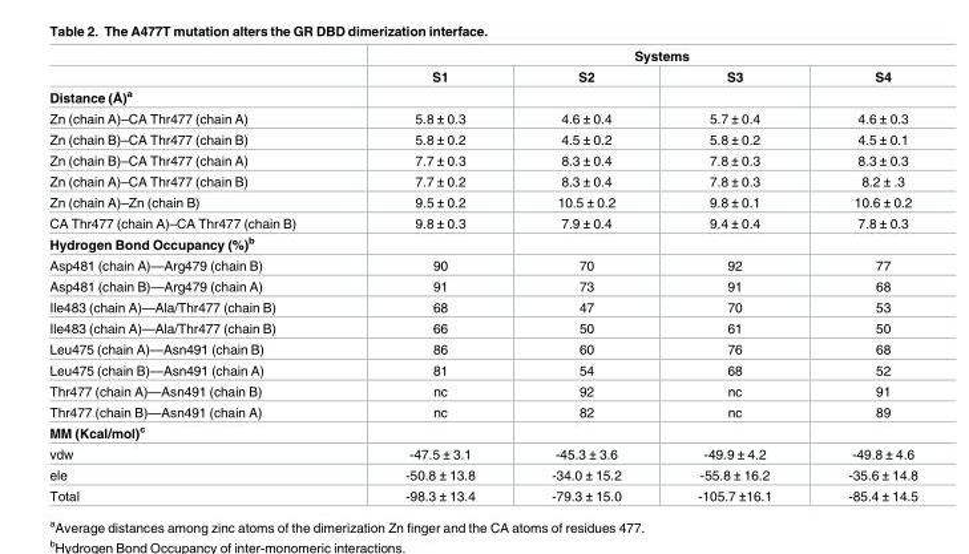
<table><thead><tr><td rowspan="2"></td><td colspan="4">Systems</td></tr><tr><td>S1</td><td>S2</td><td>S3</td><td>S4</td></tr></thead><tbody><tr><td colspan="5">Distance (Å)<sup>a</sup></td></tr><tr><td>Zn (chain A)–CA Thr477 (chain A)</td><td>5.8 ± 0.3</td><td>4.6 ± 0.4</td><td>5.7 ± 0.4</td><td>4.6 ± 0.3</td></tr><tr><td>Zn (chain B)–CA Thr477 (chain B)</td><td>5.8 ± 0.2</td><td>4.5 ± 0.2</td><td>5.8 ± 0.2</td><td>4.5 ± 0.1</td></tr><tr><td>Zn (chain B)–CA Thr477 (chain A)</td><td>7.7 ± 0.3</td><td>8.3 ± 0.4</td><td>7.8 ± 0.3</td><td>8.3 ± 0.3</td></tr><tr><td>Zn (chain A)–CA Thr477 (chain B)</td><td>7.7 ± 0.2</td><td>8.3 ± 0.4</td><td>7.8 ± 0.3</td><td>8.2 ± .3</td></tr><tr><td>Zn (chain A)–Zn (chain B)</td><td>9.5 ± 0.2</td><td>10.5 ± 0.2</td><td>9.8 ± 0.1</td><td>10.6 ± 0.2</td></tr><tr><td>CA Thr477 (chain A)–CA Thr477 (chain B)</td><td>9.8 ± 0.3</td><td>7.9 ± 0.4</td><td>9.4 ± 0.4</td><td>7.8 ± 0.3</td></tr><tr><td colspan="5">Hydrogen Bond Occupancy (%)<sup>b</sup></td></tr><tr><td>Asp481 (chain A)—Arg479 (chain B)</td><td>90</td><td>70</td><td>92</td><td>77</td></tr><tr><td>Asp481 (chain B)—Arg479 (chain A)</td><td>91</td><td>73</td><td>91</td><td>68</td></tr><tr><td>Ile483 (chain A)—Ala/Thr477 (chain B)</td><td>68</td><td>47</td><td>70</td><td>53</td></tr><tr><td>Ile483 (chain A)—Ala/Thr477 (chain B)</td><td>66</td><td>50</td><td>61</td><td>50</td></tr><tr><td>Leu475 (chain A)—Asn491 (chain B)</td><td>86</td><td>60</td><td>76</td><td>68</td></tr><tr><td>Leu475 (chain B)—Asn491 (chain A)</td><td>81</td><td>54</td><td>68</td><td>52</td></tr><tr><td>Thr477 (chain A)—Asn491 (chain B)</td><td>nc</td><td>92</td><td>nc</td><td>91</td></tr><tr><td>Thr477 (chain B)—Asn491 (chain A)</td><td>nc</td><td>82</td><td>nc</td><td>89</td></tr><tr><td colspan="5">MM (Kcal/mol)<sup>c</sup></td></tr><tr><td>vdw</td><td>-47.5 ± 3.1</td><td>-45.3 ± 3.6</td><td>-49.9 ± 4.2</td><td>-49.8 ± 4.6</td></tr><tr><td>ele</td><td>-50.8 ± 13.8</td><td>-34.0 ± 15.2</td><td>-55.8 ± 16.2</td><td>-35.6 ± 14.8</td></tr><tr><td>Total</td><td>-98.3 ± 13.4</td><td>-79.3 ± 15.0</td><td>-105.7 ±16.1</td><td>-85.4 ± 14.5</td></tr></tbody></table>